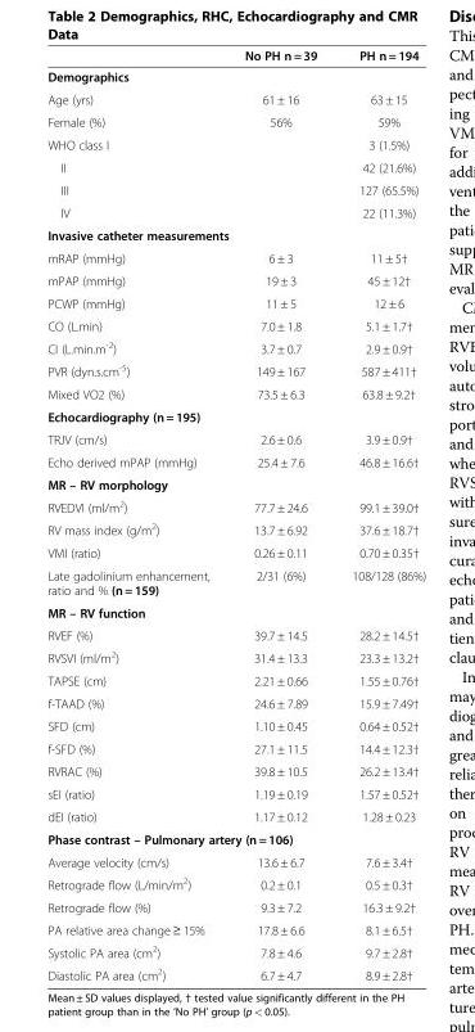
<table><thead><tr><td></td><td>No PH n = 39</td><td>PH n = 194</td></tr></thead><tbody><tr><td colspan="3">Demographics</td></tr><tr><td>Age (yrs)</td><td>61 ± 16</td><td>63 ± 15</td></tr><tr><td>Female (%)</td><td>56%</td><td>59%</td></tr><tr><td>WHO class I</td><td></td><td>3 (1.5%)</td></tr><tr><td>II</td><td></td><td>42 (21.6%)</td></tr><tr><td>III</td><td></td><td>127 (65.5%)</td></tr><tr><td>IV</td><td></td><td>22 (11.3%)</td></tr><tr><td colspan="3">Invasive catheter measurements</td></tr><tr><td>mRAP (mmHg)</td><td>6 ± 3</td><td>11 ± 5†</td></tr><tr><td>mPAP (mmHg)</td><td>19 ± 3</td><td>45 ± 12†</td></tr><tr><td>PCWP (mmHg)</td><td>11 ± 5</td><td>12 ± 6</td></tr><tr><td>CO (L.min)</td><td>7.0 ± 1.8</td><td>5.1 ± 1.7†</td></tr><tr><td>CI (L.min.m<sup>-2</sup>)</td><td>3.7 ± 0.7</td><td>2.9 ± 0.9†</td></tr><tr><td>PVR (dyn.s.cm<sup>-5</sup>)</td><td>149 ± 167</td><td>587 ± 411†</td></tr><tr><td>Mixed VO2 (%)</td><td>73.5 ± 6.3</td><td>63.8 ± 9.2†</td></tr><tr><td colspan="3">Echocardiography (n = 195)</td></tr><tr><td>TRJV (cm/s)</td><td>2.6 ± 0.6</td><td>3.9 ± 0.9†</td></tr><tr><td>Echo derived mPAP (mmHg)</td><td>25.4 ± 7.6</td><td>46.8 ± 16.6†</td></tr><tr><td colspan="3">MR – RV morphology</td></tr><tr><td>RVEDVI (ml/m<sup>2</sup>)</td><td>77.7 ± 24.6</td><td>99.1 ± 39.0†</td></tr><tr><td>RV mass index (g/m<sup>2</sup>)</td><td>13.7 ± 6.92</td><td>37.6 ± 18.7†</td></tr><tr><td>VMI (ratio)</td><td>0.26 ± 0.11</td><td>0.70 ± 0.35†</td></tr><tr><td>Late gadolinium enhancement, ratio and % (n = 159)</td><td>2/31 (6%)</td><td>108/128 (86%)</td></tr><tr><td colspan="3">MR – RV function</td></tr><tr><td>RVEF (%)</td><td>39.7 ± 14.5</td><td>28.2 ± 14.5†</td></tr><tr><td>RVSVI (ml/m<sup>2</sup>)</td><td>31.4 ± 13.3</td><td>23.3 ± 13.2†</td></tr><tr><td>TAPSE (cm)</td><td>2.21 ± 0.66</td><td>1.55 ± 0.76†</td></tr><tr><td>f-TAAD (%)</td><td>24.6 ± 7.89</td><td>15.9 ± 7.49†</td></tr><tr><td>SFD (cm)</td><td>1.10 ± 0.45</td><td>0.64 ± 0.52†</td></tr><tr><td>f-SFD (%)</td><td>27.1 ± 11.5</td><td>14.4 ± 12.3†</td></tr><tr><td>RVRAC (%)</td><td>39.8 ± 10.5</td><td>26.2 ± 13.4†</td></tr><tr><td>sEI (ratio)</td><td>1.19 ± 0.19</td><td>1.57 ± 0.52†</td></tr><tr><td>dEI (ratio)</td><td>1.17 ± 0.12</td><td>1.28 ± 0.23</td></tr><tr><td colspan="3">Phase contrast – Pulmonary artery (n = 106)</td></tr><tr><td>Average velocity (cm/s)</td><td>13.6 ± 6.7</td><td>7.6 ± 3.4†</td></tr><tr><td>Retrograde flow (L/min/m<sup>2</sup>)</td><td>0.2 ± 0.1</td><td>0.5 ± 0.3†</td></tr><tr><td>Retrograde flow (%)</td><td>9.3 ± 7.2</td><td>16.3 ± 9.2†</td></tr><tr><td>PA relative area change ≥ 15%</td><td>17.8 ± 6.6</td><td>8.1 ± 6.5†</td></tr><tr><td>Systolic PA area (cm<sup>2</sup>)</td><td>7.8 ± 4.6</td><td>9.7 ± 2.8†</td></tr><tr><td>Diastolic PA area (cm<sup>2</sup>)</td><td>6.7 ± 4.7</td><td>8.9 ± 2.8†</td></tr></tbody></table>